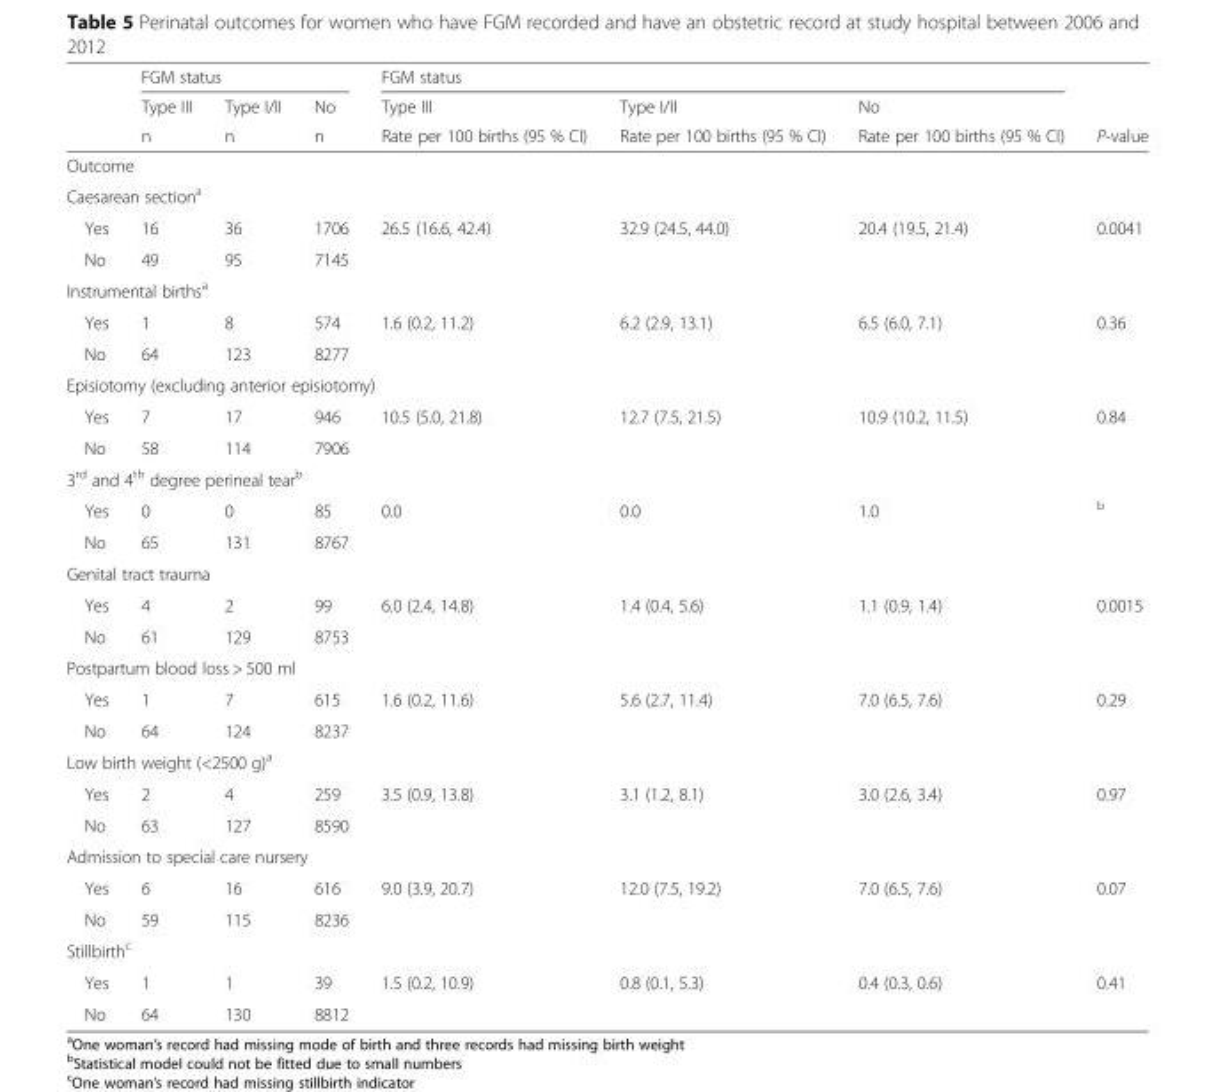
<table><thead><tr><td rowspan="3"></td><td colspan="3">FGM status</td><td colspan="3">FGM status</td><td rowspan="3">P-value</td></tr><tr><td rowspan="2">Type III n</td><td rowspan="2">Type I/II n</td><td rowspan="2">No n</td><td rowspan="2">Type III Rate per 100 births (95 % CI)</td><td rowspan="2">Type I/II Rate per 100 births (95 % CI)</td><td rowspan="2">No Rate per 100 births (95 % CI)</td></tr><tr></tr></thead><tbody><tr><td colspan="8">Outcome</td></tr><tr><td colspan="8">Caesarean section<sup>a</sup></td></tr><tr><td>Yes</td><td>16</td><td>36</td><td>1706</td><td>26.5 (16.6, 42.4)</td><td>32.9 (24.5, 44.0)</td><td>20.4 (19.5, 21.4)</td><td>0.0041</td></tr><tr><td>No</td><td>49</td><td>95</td><td>7145</td><td></td><td></td><td></td><td></td></tr><tr><td colspan="8">Instrumental births<sup>a</sup></td></tr><tr><td>Yes</td><td>1</td><td>8</td><td>574</td><td>1.6 (0.2, 11.2)</td><td>6.2 (2.9, 13.1)</td><td>6.5 (6.0, 7.1)</td><td>0.36</td></tr><tr><td>No</td><td>64</td><td>123</td><td>8277</td><td></td><td></td><td></td><td></td></tr><tr><td colspan="8">Episiotomy (excluding anterior episiotomy)</td></tr><tr><td>Yes</td><td>7</td><td>17</td><td>946</td><td>10.5 (5.0, 21.8)</td><td>12.7 (7.5, 21.5)</td><td>10.9 (10.2, 11.5)</td><td>0.84</td></tr><tr><td>No</td><td>58</td><td>114</td><td>7906</td><td></td><td></td><td></td><td></td></tr><tr><td colspan="8">3<sup>rd</sup> and 4<sup>th</sup> degree perineal tear<sup>b</sup></td></tr><tr><td>Yes</td><td>0</td><td>0</td><td>85</td><td>0.0</td><td>0.0</td><td>1.0</td><td><sup>b</sup></td></tr><tr><td>No</td><td>65</td><td>131</td><td>8767</td><td></td><td></td><td></td><td></td></tr><tr><td colspan="8">Genital tract trauma</td></tr><tr><td>Yes</td><td>4</td><td>2</td><td>99</td><td>6.0 (2.4, 14.8)</td><td>1.4 (0.4, 5.6)</td><td>1.1 (0.9, 1.4)</td><td>0.0015</td></tr><tr><td>No</td><td>61</td><td>129</td><td>8753</td><td></td><td></td><td></td><td></td></tr><tr><td colspan="8">Postpartum blood loss &gt; 500 ml</td></tr><tr><td>Yes</td><td>1</td><td>7</td><td>615</td><td>1.6 (0.2, 11.6)</td><td>5.6 (2.7, 11.4)</td><td>7.0 (6.5, 7.6)</td><td>0.29</td></tr><tr><td>No</td><td>64</td><td>124</td><td>8237</td><td></td><td></td><td></td><td></td></tr><tr><td colspan="8">Low birth weight (&lt;2500 g)<sup>a</sup></td></tr><tr><td>Yes</td><td>2</td><td>4</td><td>259</td><td>3.5 (0.9, 13.8)</td><td>3.1 (1.2, 8.1)</td><td>3.0 (2.6, 3.4)</td><td>0.97</td></tr><tr><td>No</td><td>63</td><td>127</td><td>8590</td><td></td><td></td><td></td><td></td></tr><tr><td colspan="8">Admission to special care nursery</td></tr><tr><td>Yes</td><td>6</td><td>16</td><td>616</td><td>9.0 (3.9, 20.7)</td><td>12.0 (7.5, 19.2)</td><td>7.0 (6.5, 7.6)</td><td>0.07</td></tr><tr><td>No</td><td>59</td><td>115</td><td>8236</td><td></td><td></td><td></td><td></td></tr><tr><td colspan="8">Stillbirth<sup>c</sup></td></tr><tr><td>Yes</td><td>1</td><td>1</td><td>39</td><td>1.5 (0.2, 10.9)</td><td>0.8 (0.1, 5.3)</td><td>0.4 (0.3, 0.6)</td><td>0.41</td></tr><tr><td>No</td><td>64</td><td>130</td><td>8812</td><td></td><td></td><td></td><td></td></tr></tbody></table>